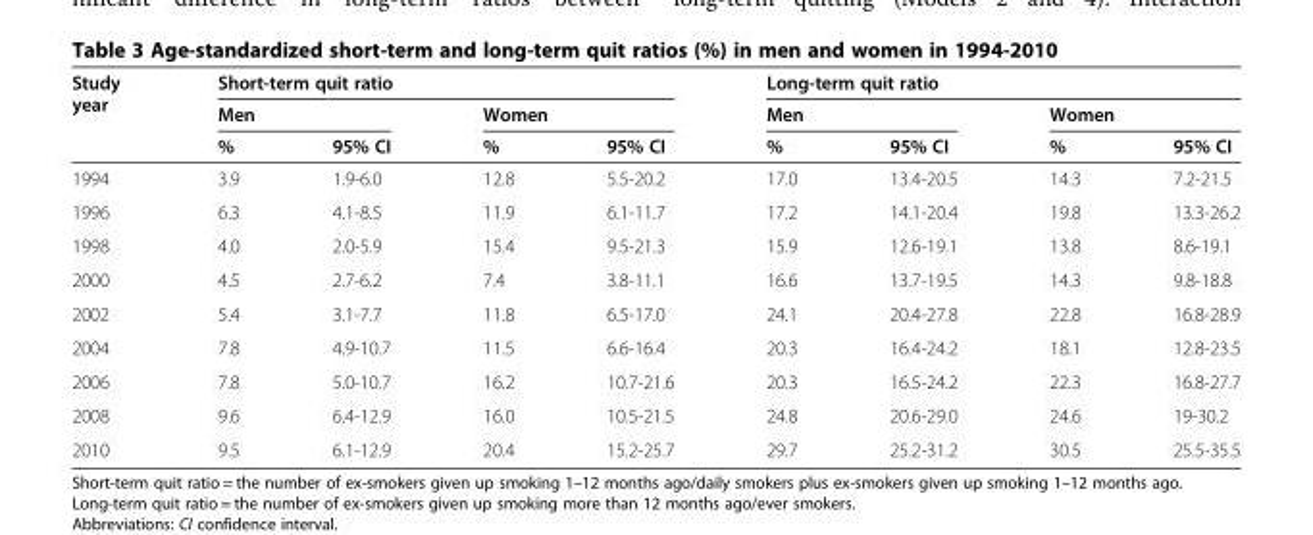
<table><thead><tr><td rowspan="3">Study year</td><td colspan="4">Short-term quit ratio</td><td colspan="4">Long-term quit ratio</td></tr><tr><td colspan="2">Men</td><td colspan="2">Women</td><td colspan="2">Men</td><td colspan="2">Women</td></tr><tr><td>%</td><td>95% CI</td><td>%</td><td>95% CI</td><td>%</td><td>95% CI</td><td>%</td><td>95% CI</td></tr></thead><tbody><tr><td>1994</td><td>3.9</td><td>1.9-6.0</td><td>12.8</td><td>5.5-20.2</td><td>17.0</td><td>13.4-20.5</td><td>14.3</td><td>7.2-21.5</td></tr><tr><td>1996</td><td>6.3</td><td>4.1-8.5</td><td>11.9</td><td>6.1-11.7</td><td>17.2</td><td>14.1-20.4</td><td>19.8</td><td>13.3-26.2</td></tr><tr><td>1998</td><td>4.0</td><td>2.0-5.9</td><td>15.4</td><td>9.5-21.3</td><td>15.9</td><td>12.6-19.1</td><td>13.8</td><td>8.6-19.1</td></tr><tr><td>2000</td><td>4.5</td><td>2.7-6.2</td><td>7.4</td><td>3.8-11.1</td><td>16.6</td><td>13.7-19.5</td><td>14.3</td><td>9.8-18.8</td></tr><tr><td>2002</td><td>5.4</td><td>3.1-7.7</td><td>11.8</td><td>6.5-17.0</td><td>24.1</td><td>20.4-27.8</td><td>22.8</td><td>16.8-28.9</td></tr><tr><td>2004</td><td>7.8</td><td>4.9-10.7</td><td>11.5</td><td>6.6-16.4</td><td>20.3</td><td>16.4-24.2</td><td>18.1</td><td>12.8-23.5</td></tr><tr><td>2006</td><td>7.8</td><td>5.0-10.7</td><td>16.2</td><td>10.7-21.6</td><td>20.3</td><td>16.5-24.2</td><td>22.3</td><td>16.8-27.7</td></tr><tr><td>2008</td><td>9.6</td><td>6.4-12.9</td><td>16.0</td><td>10.5-21.5</td><td>24.8</td><td>20.6-29.0</td><td>24.6</td><td>19-30.2</td></tr><tr><td>2010</td><td>9.5</td><td>6.1-12.9</td><td>20.4</td><td>15.2-25.7</td><td>29.7</td><td>25.2-31.2</td><td>30.5</td><td>25.5-35.5</td></tr></tbody></table>